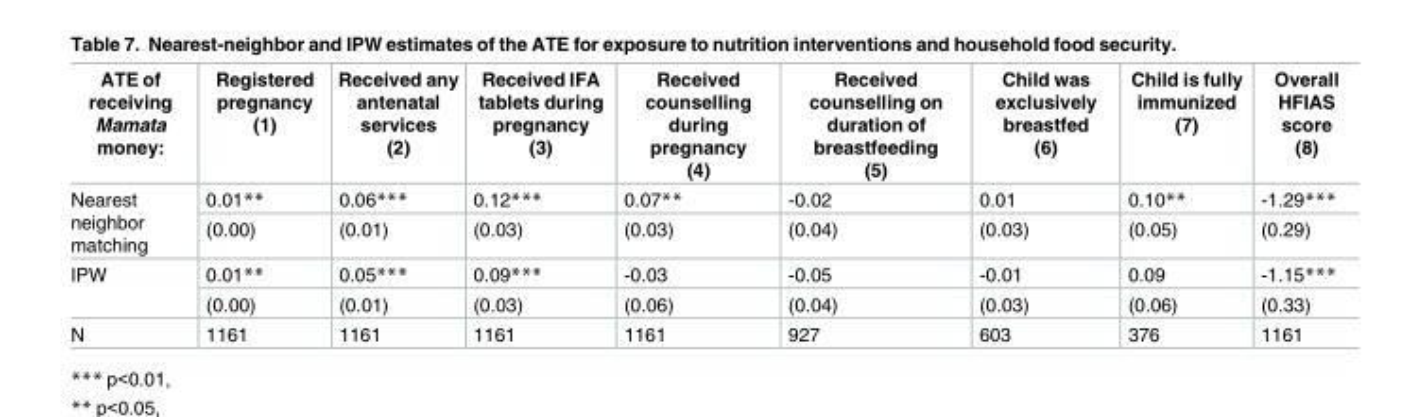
<table><thead><tr><td>ATE of receiving Mamata money:</td><td>Registered pregnancy (1)</td><td>Received any antenatal services (2)</td><td>Received IFA tablets during pregnancy (3)</td><td>Received counselling during pregnancy (4)</td><td>Received counselling on duration of breastfeeding (5)</td><td>Child was exclusively breastfed (6)</td><td>Child is fully immunized (7)</td><td>Overall HFIAS score (8)</td></tr></thead><tbody><tr><td rowspan="2">Nearest neighbor matching</td><td>0.01**</td><td>0.06***</td><td>0.12***</td><td>0.07**</td><td>-0.02</td><td>0.01</td><td>0.10**</td><td>-1.29***</td></tr><tr><td>(0.00)</td><td>(0.01)</td><td>(0.03)</td><td>(0.03)</td><td>(0.04)</td><td>(0.03)</td><td>(0.05)</td><td>(0.29)</td></tr><tr><td rowspan="2">IPW</td><td>0.01**</td><td>0.05***</td><td>0.09***</td><td>-0.03</td><td>-0.05</td><td>-0.01</td><td>0.09</td><td>-1.15***</td></tr><tr><td>(0.00)</td><td>(0.01)</td><td>(0.03)</td><td>(0.06)</td><td>(0.04)</td><td>(0.03)</td><td>(0.06)</td><td>(0.33)</td></tr><tr><td>N</td><td>1161</td><td>1161</td><td>1161</td><td>1161</td><td>927</td><td>603</td><td>376</td><td>1161</td></tr></tbody></table>